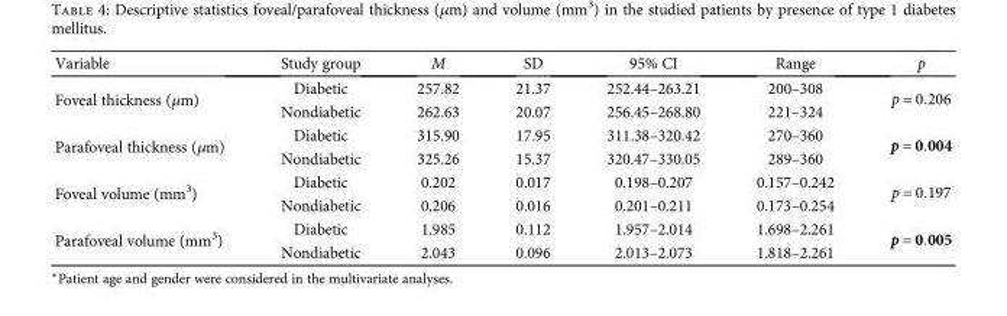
<table><thead><tr><td>Variable</td><td>Study group</td><td>M</td><td>SD</td><td>95% CI</td><td>Range</td><td>p</td></tr></thead><tbody><tr><td rowspan="2">Foveal thickness (μm)</td><td>Diabetic</td><td>257.82</td><td>21.37</td><td>252.44–263.21</td><td>200–308</td><td rowspan="2">p = 0 206</td></tr><tr><td>Nondiabetic</td><td>262.63</td><td>20.07</td><td>256.45–268.80</td><td>221–324</td></tr><tr><td rowspan="2">Parafoveal thickness (μm)</td><td>Diabetic</td><td>315.90</td><td>17.95</td><td>311.38–320.42</td><td>270–360</td><td rowspan="2">p = 0 004</td></tr><tr><td>Nondiabetic</td><td>325.26</td><td>15.37</td><td>320.47–330.05</td><td>289–360</td></tr><tr><td rowspan="2">Foveal volume (mm<sup>3</sup>)</td><td>Diabetic</td><td>0.202</td><td>0.017</td><td>0.198–0.207</td><td>0.157–0.242</td><td rowspan="2">p = 0 197</td></tr><tr><td>Nondiabetic</td><td>0.206</td><td>0.016</td><td>0.201–0.211</td><td>0.173–0.254</td></tr><tr><td rowspan="2">Parafoveal volume (mm<sup>3</sup>)</td><td>Diabetic</td><td>1.985</td><td>0.112</td><td>1.957–2.014</td><td>1.698–2.261</td><td rowspan="2">p = 0 005</td></tr><tr><td>Nondiabetic</td><td>2.043</td><td>0.096</td><td>2.013–2.073</td><td>1.818–2.261</td></tr></tbody></table>